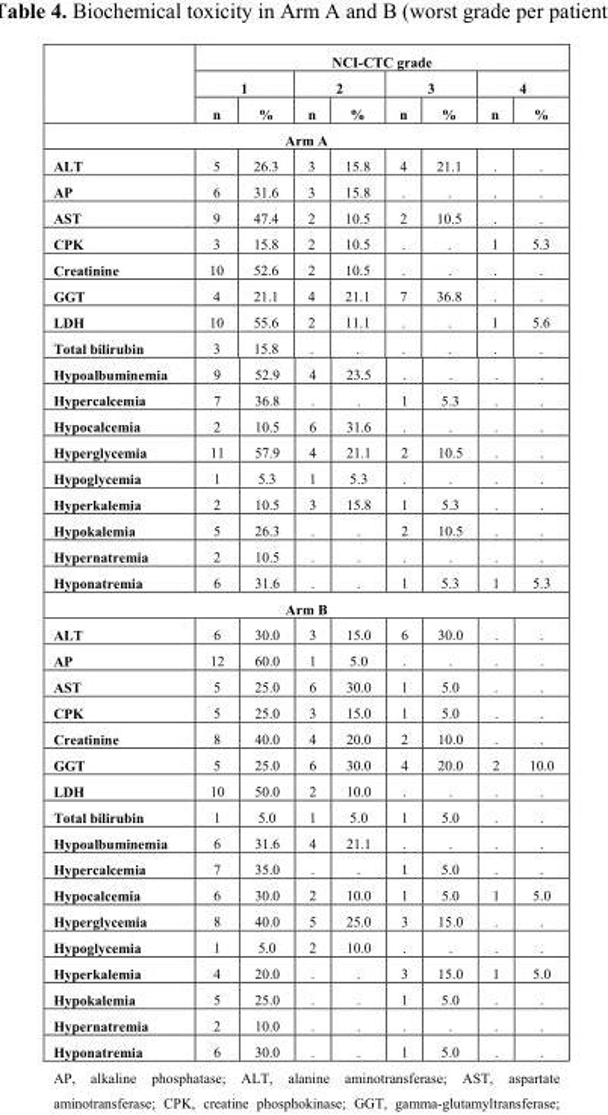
<table><thead><tr><td rowspan="3"></td><td colspan="8">NCI-CTC grade</td></tr><tr><td colspan="2">1</td><td colspan="2">2</td><td colspan="2">3</td><td colspan="2">4</td></tr><tr><td>n</td><td>%</td><td>n</td><td>%</td><td>n</td><td>%</td><td>n</td><td>%</td></tr></thead><tbody><tr><td colspan="9">Arm A</td></tr><tr><td>ALT</td><td>5</td><td>26.3</td><td>3</td><td>15.8</td><td>4</td><td>21.1</td><td>.</td><td>.</td></tr><tr><td>AP</td><td>6</td><td>31.6</td><td>3</td><td>15.8</td><td>.</td><td>.</td><td>.</td><td>.</td></tr><tr><td>AST</td><td>9</td><td>47.4</td><td>2</td><td>10.5</td><td>2</td><td>10.5</td><td>.</td><td>.</td></tr><tr><td>CPK</td><td>3</td><td>15.8</td><td>2</td><td>10.5</td><td>.</td><td>.</td><td>1</td><td>5.3</td></tr><tr><td>Creatinine</td><td>10</td><td>52.6</td><td>2</td><td>10.5</td><td>.</td><td>.</td><td>.</td><td>.</td></tr><tr><td>GGT</td><td>4</td><td>21.1</td><td>4</td><td>21.1</td><td>7</td><td>36.8</td><td>.</td><td>.</td></tr><tr><td>LDH</td><td>10</td><td>55.6</td><td>2</td><td>11.1</td><td>.</td><td>.</td><td>1</td><td>5.6</td></tr><tr><td>Total bilirubin</td><td>3</td><td>15.8</td><td>.</td><td>.</td><td>.</td><td>.</td><td>.</td><td>.</td></tr><tr><td>Hypoalbuminemia</td><td>9</td><td>52.9</td><td>4</td><td>23.5</td><td>.</td><td>.</td><td>.</td><td>.</td></tr><tr><td>Hypercalcemia</td><td>7</td><td>36.8</td><td>.</td><td>.</td><td>1</td><td>5.3</td><td>.</td><td>.</td></tr><tr><td>Hypocalcemia</td><td>2</td><td>10.5</td><td>6</td><td>31.6</td><td>.</td><td>.</td><td>.</td><td>.</td></tr><tr><td>Hyperglycemia</td><td>11</td><td>57.9</td><td>4</td><td>21.1</td><td>2</td><td>10.5</td><td>.</td><td>.</td></tr><tr><td>Hypoglycemia</td><td>1</td><td>5.3</td><td>1</td><td>5.3</td><td>.</td><td>.</td><td>.</td><td>.</td></tr><tr><td>Hyperkalemia</td><td>2</td><td>10.5</td><td>3</td><td>15.8</td><td>1</td><td>5.3</td><td>.</td><td>.</td></tr><tr><td>Hypokalemia</td><td>5</td><td>26.3</td><td>.</td><td>.</td><td>2</td><td>10.5</td><td>.</td><td>.</td></tr><tr><td>Hypernatremia</td><td>2</td><td>10.5</td><td>.</td><td>.</td><td>.</td><td>.</td><td>.</td><td>.</td></tr><tr><td>Hyponatremia</td><td>6</td><td>31.6</td><td>.</td><td>.</td><td>1</td><td>5.3</td><td>1</td><td>5.3</td></tr><tr><td colspan="9">Arm B</td></tr><tr><td>ALT</td><td>6</td><td>30.0</td><td>3</td><td>15.0</td><td>6</td><td>30.0</td><td>.</td><td>.</td></tr><tr><td>AP</td><td>12</td><td>60.0</td><td>1</td><td>5.0</td><td>.</td><td>.</td><td>.</td><td>.</td></tr><tr><td>AST</td><td>5</td><td>25.0</td><td>6</td><td>30.0</td><td>1</td><td>5.0</td><td>.</td><td>.</td></tr><tr><td>CPK</td><td>5</td><td>25.0</td><td>3</td><td>15.0</td><td>1</td><td>5.0</td><td>.</td><td>.</td></tr><tr><td>Creatinine</td><td>8</td><td>40.0</td><td>4</td><td>20.0</td><td>2</td><td>10.0</td><td>.</td><td>.</td></tr><tr><td>GGT</td><td>5</td><td>25.0</td><td>6</td><td>30.0</td><td>4</td><td>20.0</td><td>2</td><td>10.0</td></tr><tr><td>LDH</td><td>10</td><td>50.0</td><td>2</td><td>10.0</td><td>.</td><td>.</td><td>.</td><td>.</td></tr><tr><td>Total bilirubin</td><td>1</td><td>5.0</td><td>1</td><td>5.0</td><td>1</td><td>5.0</td><td>.</td><td>.</td></tr><tr><td>Hypoalbuminemia</td><td>6</td><td>31.6</td><td>4</td><td>21.1</td><td>.</td><td>.</td><td>.</td><td>.</td></tr><tr><td>Hypercalcemia</td><td>7</td><td>35.0</td><td>.</td><td>.</td><td>1</td><td>5.0</td><td>.</td><td>.</td></tr><tr><td>Hypocalcemia</td><td>6</td><td>30.0</td><td>2</td><td>10.0</td><td>1</td><td>5.0</td><td>1</td><td>5.0</td></tr><tr><td>Hyperglycemia</td><td>8</td><td>40.0</td><td>5</td><td>25.0</td><td>3</td><td>15.0</td><td>.</td><td>.</td></tr><tr><td>Hypoglycemia</td><td>1</td><td>5.0</td><td>2</td><td>10.0</td><td>.</td><td>.</td><td>.</td><td>.</td></tr><tr><td>Hyperkalemia</td><td>4</td><td>20.0</td><td>.</td><td>.</td><td>3</td><td>15.0</td><td>1</td><td>5.0</td></tr><tr><td>Hypokalemia</td><td>5</td><td>25.0</td><td>.</td><td>.</td><td>1</td><td>5.0</td><td>.</td><td>.</td></tr><tr><td>Hypernatremia</td><td>2</td><td>10.0</td><td>.</td><td>.</td><td>.</td><td>.</td><td>.</td><td>.</td></tr><tr><td>Hyponatremia</td><td>6</td><td>30.0</td><td>.</td><td>.</td><td>1</td><td>5.0</td><td>.</td><td>.</td></tr></tbody></table>